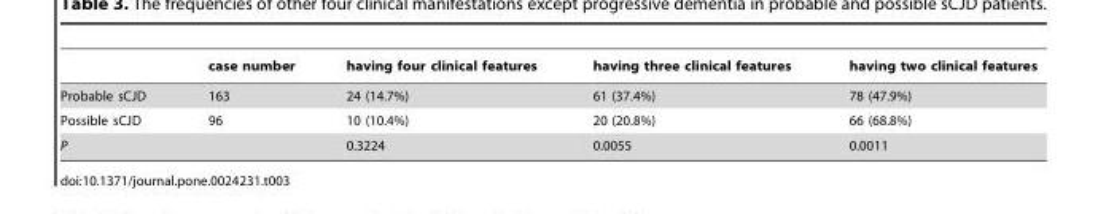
<table><thead><tr><td></td><td>case number</td><td>having four clinical features</td><td>having three clinical features</td><td>having two clinical features</td></tr></thead><tbody><tr><td>Probable sCJD</td><td>163</td><td>24 (14.7%)</td><td>61 (37.4%)</td><td>78 (47.9%)</td></tr><tr><td>Possible sCJD</td><td>96</td><td>10 (10.4%)</td><td>20 (20.8%)</td><td>66 (68.8%)</td></tr><tr><td>P</td><td></td><td>0.3224</td><td>0.0055</td><td>0.0011</td></tr></tbody></table>